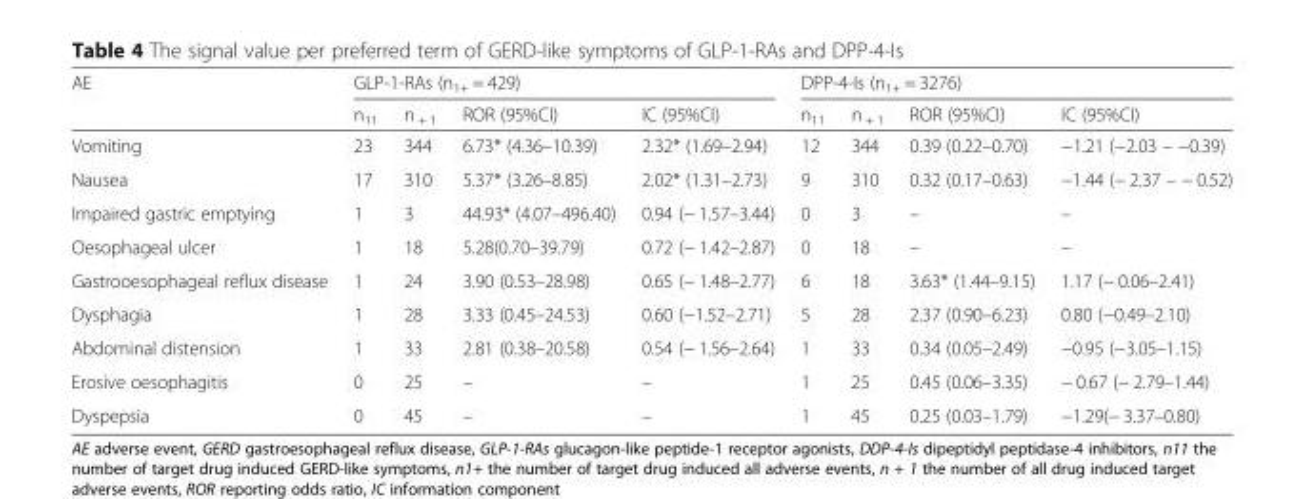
<table><thead><tr><td rowspan="2">AE</td><td colspan="4">GLP-1-RAs (n<sub>1+</sub> = 429)</td><td colspan="4">DPP-4-Is (n<sub>1+</sub> = 3276)</td></tr><tr><td>n<sub>11</sub></td><td>n <sub>+ 1</sub></td><td>ROR (95%CI)</td><td>IC (95%CI)</td><td>n<sub>11</sub></td><td>n <sub>+ 1</sub></td><td>ROR (95%CI)</td><td>IC (95%CI)</td></tr></thead><tbody><tr><td>Vomiting</td><td>23</td><td>344</td><td>6.73* (4.36–10.39)</td><td>2.32* (1.69–2.94)</td><td>12</td><td>344</td><td>0.39 (0.22–0.70)</td><td>−1.21 (−2.03 – −0.39)</td></tr><tr><td>Nausea</td><td>17</td><td>310</td><td>5.37* (3.26–8.85)</td><td>2.02* (1.31–2.73)</td><td>9</td><td>310</td><td>0.32 (0.17–0.63)</td><td>−1.44 (− 2.37 – − 0.52)</td></tr><tr><td>Impaired gastric emptying</td><td>1</td><td>3</td><td>44.93* (4.07–496.40)</td><td>0.94 (− 1.57–3.44)</td><td>0</td><td>3</td><td>–</td><td>–</td></tr><tr><td>Oesophageal ulcer</td><td>1</td><td>18</td><td>5.28(0.70–39.79)</td><td>0.72 (− 1.42–2.87)</td><td>0</td><td>18</td><td>–</td><td>–</td></tr><tr><td>Gastrooesophageal reflux disease</td><td>1</td><td>24</td><td>3.90 (0.53–28.98)</td><td>0.65 (− 1.48–2.77)</td><td>6</td><td>18</td><td>3.63* (1.44–9.15)</td><td>1.17 (− 0.06–2.41)</td></tr><tr><td>Dysphagia</td><td>1</td><td>28</td><td>3.33 (0.45–24.53)</td><td>0.60 (−1.52–2.71)</td><td>5</td><td>28</td><td>2.37 (0.90–6.23)</td><td>0.80 (−0.49–2.10)</td></tr><tr><td>Abdominal distension</td><td>1</td><td>33</td><td>2.81 (0.38–20.58)</td><td>0.54 (− 1.56–2.64)</td><td>1</td><td>33</td><td>0.34 (0.05–2.49)</td><td>−0.95 (−3.05–1.15)</td></tr><tr><td>Erosive oesophagitis</td><td>0</td><td>25</td><td>–</td><td>–</td><td>1</td><td>25</td><td>0.45 (0.06–3.35)</td><td>− 0.67 (− 2.79–1.44)</td></tr><tr><td>Dyspepsia</td><td>0</td><td>45</td><td>–</td><td>–</td><td>1</td><td>45</td><td>0.25 (0.03–1.79)</td><td>−1.29(− 3.37–0.80)</td></tr></tbody></table>